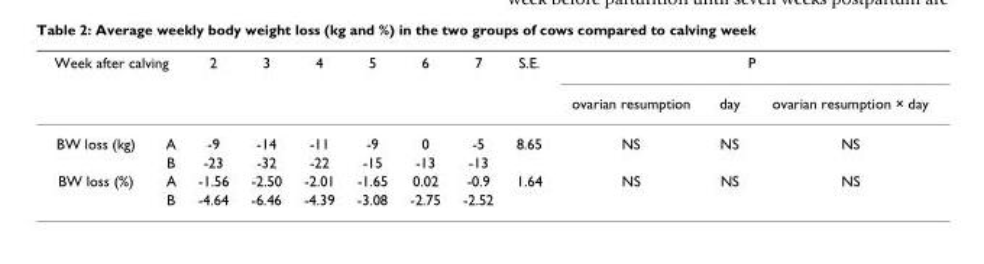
<table><thead><tr><td colspan="2">Week after calving</td><td rowspan="2">2</td><td rowspan="2">3</td><td rowspan="2">4</td><td rowspan="2">5</td><td rowspan="2">6</td><td rowspan="2">7</td><td rowspan="2">S.E.</td><td colspan="3">P</td></tr><tr><td></td><td></td><td>ovarian resumption</td><td>day</td><td>ovarian resumption × day</td></tr></thead><tbody><tr><td rowspan="2">BW loss (kg)</td><td>A</td><td>-9</td><td>-14</td><td>-11</td><td>-9</td><td>0</td><td>-5</td><td>8.65</td><td>NS</td><td>NS</td><td>NS</td></tr><tr><td>B</td><td>-23</td><td>-32</td><td>-22</td><td>-15</td><td>-13</td><td>-13</td><td></td><td></td><td></td><td></td></tr><tr><td rowspan="2">BW loss (%)</td><td>A</td><td>-1.56</td><td>-2.50</td><td>-2.01</td><td>-1.65</td><td>0.02</td><td>-0.9</td><td>1.64</td><td>NS</td><td>NS</td><td>NS</td></tr><tr><td>B</td><td>-4.64</td><td>-6.46</td><td>-4.39</td><td>-3.08</td><td>-2.75</td><td>-2.52</td><td></td><td></td><td></td><td></td></tr></tbody></table>